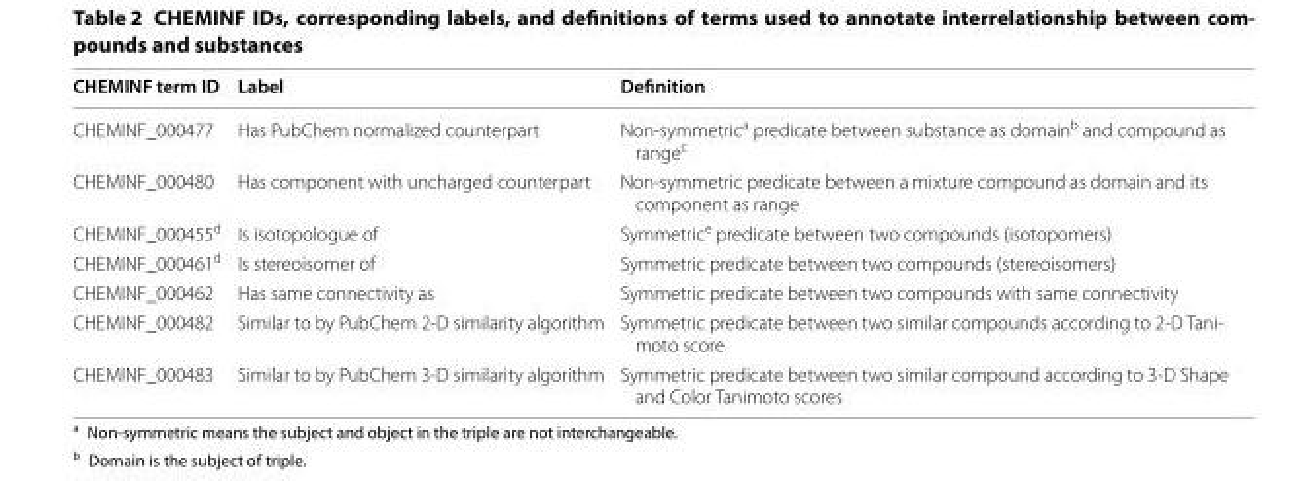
<table><thead><tr><td>CHEMINF term ID</td><td>Label</td><td>Definition</td></tr></thead><tbody><tr><td>CHEMINF_000477</td><td>Has PubChem normalized counterpart</td><td>Non-symmetric<sup>a</sup> predicate between substance as domain<sup>b</sup> and compound as range<sup>c</sup></td></tr><tr><td>CHEMINF_000480</td><td>Has component with uncharged counterpart</td><td>Non-symmetric predicate between a mixture compound as domain and its component as range</td></tr><tr><td>CHEMINF_000455<sup>d</sup></td><td>Is isotopologue of</td><td>Symmetric<sup>e</sup> predicate between two compounds (isotopomers)</td></tr><tr><td>CHEMINF_000461<sup>d</sup></td><td>Is stereoisomer of</td><td>Symmetric predicate between two compounds (stereoisomers)</td></tr><tr><td>CHEMINF_000462</td><td>Has same connectivity as</td><td>Symmetric predicate between two compounds with same connectivity</td></tr><tr><td>CHEMINF_000482</td><td>Similar to by PubChem 2-D similarity algorithm</td><td>Symmetric predicate between two similar compounds according to 2-D Tani- moto score</td></tr><tr><td>CHEMINF_000483</td><td>Similar to by PubChem 3-D similarity algorithm</td><td>Symmetric predicate between two similar compound according to 3-D Shape and Color Tanimoto scores</td></tr></tbody></table>